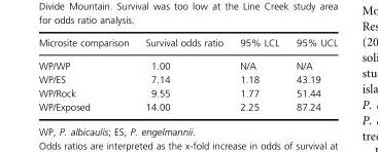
<table><thead><tr><td>Microsite comparison</td><td>Survival odds ratio</td><td>95% LCL</td><td>95% UCL</td></tr></thead><tbody><tr><td>WP/WP</td><td>1.00</td><td>N/A</td><td>N/A</td></tr><tr><td>WP/ES</td><td>7.14</td><td>1.18</td><td>43.19</td></tr><tr><td>WP/Rock</td><td>9.55</td><td>1.77</td><td>51.44</td></tr><tr><td>WP/Exposed</td><td>14.00</td><td>2.25</td><td>87.24</td></tr></tbody></table>